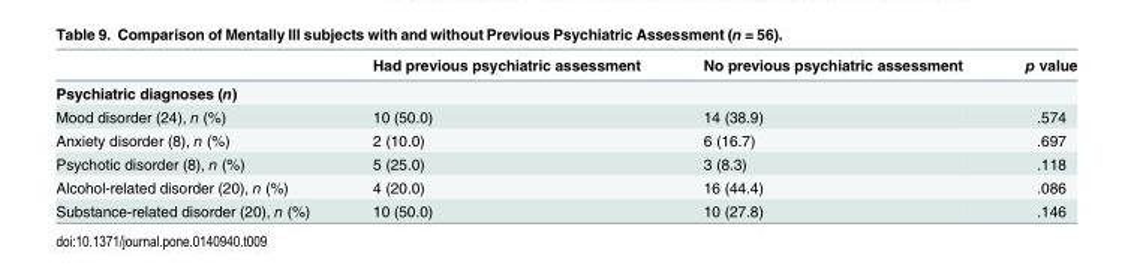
<table><thead><tr><td></td><td>Had previous psychiatric assessment</td><td>No previous psychiatric assessment</td><td>p value</td></tr></thead><tbody><tr><td colspan="4">Psychiatric diagnoses (n)</td></tr><tr><td>Mood disorder (24), n (%)</td><td>10 (50.0)</td><td>14 (38.9)</td><td>.574</td></tr><tr><td>Anxiety disorder (8), n (%)</td><td>2 (10.0)</td><td>6 (16.7)</td><td>.697</td></tr><tr><td>Psychotic disorder (8), n (%)</td><td>5 (25.0)</td><td>3 (8.3)</td><td>.118</td></tr><tr><td>Alcohol-related disorder (20), n (%)</td><td>4 (20.0)</td><td>16 (44.4)</td><td>.086</td></tr><tr><td>Substance-related disorder (20), n (%)</td><td>10 (50.0)</td><td>10 (27.8)</td><td>.146</td></tr></tbody></table>